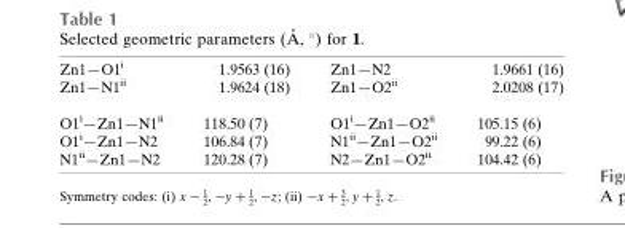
<table><tbody><tr><td>Zn1—O1<sup>i</sup></td><td>1.9563 (16)</td><td>Zn1—N2</td><td>1.9661 (16)</td></tr><tr><td>Zn1—N1<sup>ii</sup></td><td>1.9624 (18)</td><td>Zn1—O2<sup>ii</sup></td><td>2.0208 (17)</td></tr><tr><td>O1<sup>i</sup>—Zn1—N1<sup>ii</sup></td><td>118.50 (7)</td><td>O1<sup>i</sup>—Zn1—O2<sup>ii</sup></td><td>105.15 (6)</td></tr><tr><td>O1<sup>i</sup>—Zn1—N2</td><td>106.84 (7)</td><td>N1<sup>ii</sup>—Zn1—O2<sup>ii</sup></td><td>99.22 (6)</td></tr><tr><td>N1<sup>ii</sup>—Zn1—N2</td><td>120.28 (7)</td><td>N2—Zn1—O2<sup>ii</sup></td><td>104.42 (6)</td></tr></tbody></table>